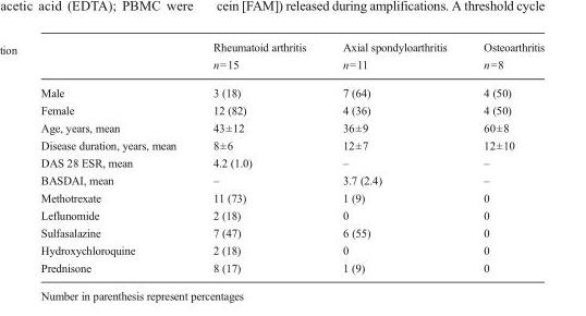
<table><thead><tr><td></td><td>Rheumatoid arthritis n=15</td><td>Axial spondyloarthritis n=11</td><td>Osteoarthritis n=8</td></tr></thead><tbody><tr><td>Male</td><td>3 (18)</td><td>7 (64)</td><td>4 (50)</td></tr><tr><td>Female</td><td>12 (82)</td><td>4 (36)</td><td>4 (50)</td></tr><tr><td>Age, years, mean</td><td>43±12</td><td>36±9</td><td>60±8</td></tr><tr><td>Disease duration, years, mean</td><td>8±6</td><td>12±7</td><td>12±10</td></tr><tr><td>DAS 28 ESR, mean</td><td>4.2 (1.0)</td><td>–</td><td>–</td></tr><tr><td>BASDAI, mean</td><td>–</td><td>3.7 (2.4)</td><td>–</td></tr><tr><td>Methotrexate</td><td>11 (73)</td><td>1 (9)</td><td>0</td></tr><tr><td>Leflunomide</td><td>2 (18)</td><td>0</td><td>0</td></tr><tr><td>Sulfasalazine</td><td>7 (47)</td><td>6 (55)</td><td>0</td></tr><tr><td>Hydroxychloroquine</td><td>2 (18)</td><td>0</td><td>0</td></tr><tr><td>Prednisone</td><td>8 (17)</td><td>1 (9)</td><td>0</td></tr></tbody></table>